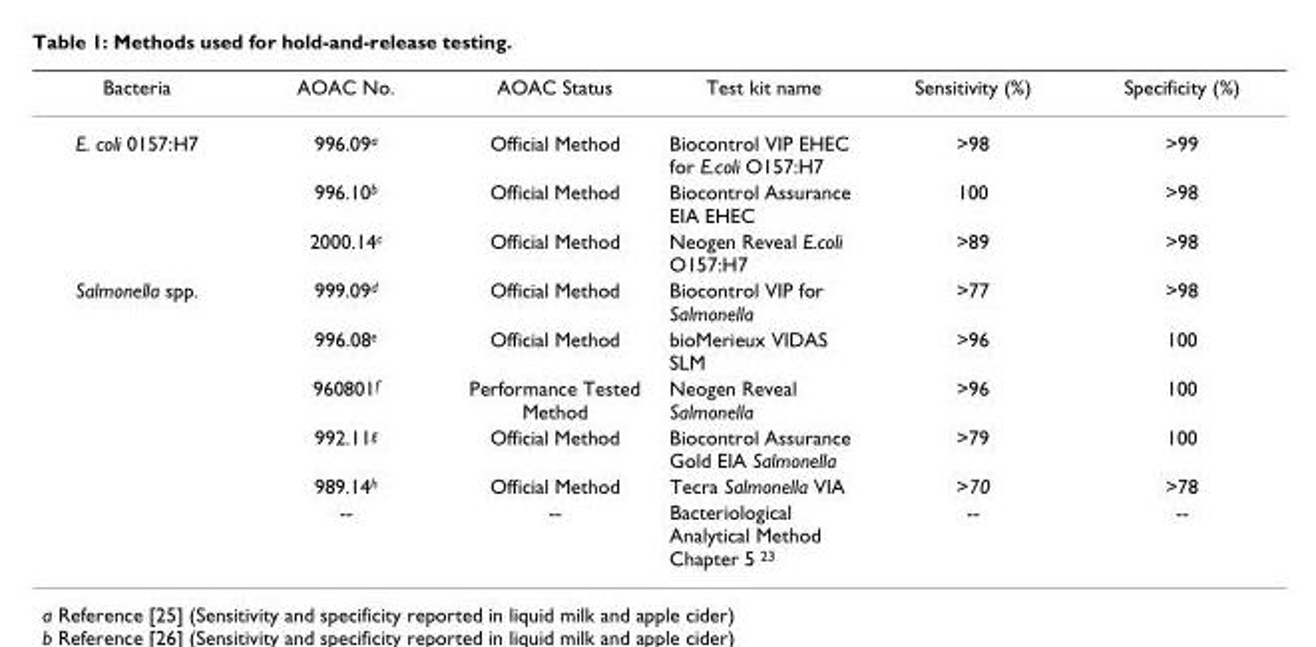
<table><thead><tr><td>Bacteria</td><td>AOAC No.</td><td>AOAC Status</td><td>Test kit name</td><td>Sensitivity (%)</td><td>Specificity (%)</td></tr></thead><tbody><tr><td rowspan="3">E. coli 0157:H7</td><td>996.09<sup>a</sup></td><td>Official Method</td><td>Biocontrol VIP EHEC for E.coli O157:H7</td><td>&gt;98</td><td>&gt;99</td></tr><tr><td>996.10<sup>b</sup></td><td>Official Method</td><td>Biocontrol Assurance EIA EHEC</td><td>100</td><td>&gt;98</td></tr><tr><td>2000.14<sup>c</sup></td><td>Official Method</td><td>Neogen Reveal E.coli O157:H7</td><td>&gt;89</td><td>&gt;98</td></tr><tr><td rowspan="6">Salmonella spp.</td><td>999.09<sup>d</sup></td><td>Official Method</td><td>Biocontrol VIP for Salmonella</td><td>&gt;77</td><td>&gt;98</td></tr><tr><td>996.08<sup>e</sup></td><td>Official Method</td><td>bioMerieux VIDAS SLM</td><td>&gt;96</td><td>100</td></tr><tr><td>960801<sup>f</sup></td><td>Performance Tested Method</td><td>Neogen Reveal Salmonella</td><td>&gt;96</td><td>100</td></tr><tr><td>992.11<sup>g</sup></td><td>Official Method</td><td>Biocontrol Assurance Gold EIA Salmonella</td><td>&gt;79</td><td>100</td></tr><tr><td>989.14<sup>h</sup></td><td>Official Method</td><td>Tecra Salmonella VIA</td><td>&gt;70</td><td>&gt;78</td></tr><tr><td>--</td><td>--</td><td>Bacteriological Analytical Method Chapter 5 <sup>23</sup></td><td>--</td><td>--</td></tr></tbody></table>